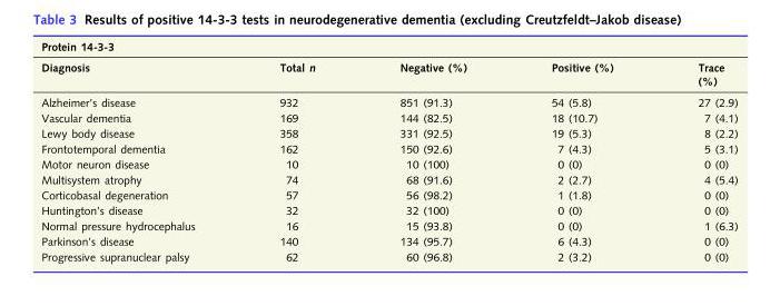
<table><thead><tr><td colspan="5">Protein 14-3-3</td></tr><tr><td>Diagnosis</td><td>Total n</td><td>Negative (%)</td><td>Positive (%)</td><td>Trace (%)</td></tr></thead><tbody><tr><td>Alzheimer’s disease</td><td>932</td><td>851 (91.3)</td><td>54 (5.8)</td><td>27 (2.9)</td></tr><tr><td>Vascular dementia</td><td>169</td><td>144 (82.5)</td><td>18 (10.7)</td><td>7 (4.1)</td></tr><tr><td>Lewy body disease</td><td>358</td><td>331 (92.5)</td><td>19 (5.3)</td><td>8 (2.2)</td></tr><tr><td>Frontotemporal dementia</td><td>162</td><td>150 (92.6)</td><td>7 (4.3)</td><td>5 (3.1)</td></tr><tr><td>Motor neuron disease</td><td>10</td><td>10 (100)</td><td>0 (0)</td><td>0 (0)</td></tr><tr><td>Multisystem atrophy</td><td>74</td><td>68 (91.6)</td><td>2 (2.7)</td><td>4 (5.4)</td></tr><tr><td>Corticobasal degeneration</td><td>57</td><td>56 (98.2)</td><td>1 (1.8)</td><td>0 (0)</td></tr><tr><td>Huntington’s disease</td><td>32</td><td>32 (100)</td><td>0 (0)</td><td>0 (0)</td></tr><tr><td>Normal pressure hydrocephalus</td><td>16</td><td>15 (93.8)</td><td>0 (0)</td><td>1 (6.3)</td></tr><tr><td>Parkinson’s disease</td><td>140</td><td>134 (95.7)</td><td>6 (4.3)</td><td>0 (0)</td></tr><tr><td>Progressive supranuclear palsy</td><td>62</td><td>60 (96.8)</td><td>2 (3.2)</td><td>0 (0)</td></tr></tbody></table>